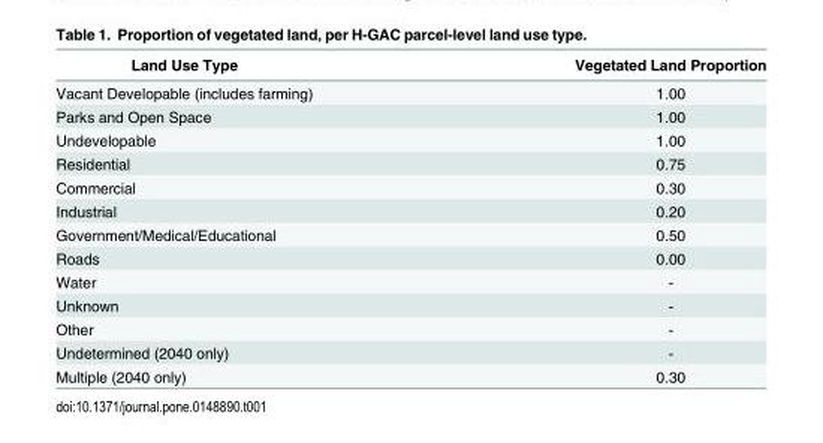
<table><thead><tr><td>Land Use Type</td><td>Vegetated Land Proportion</td></tr></thead><tbody><tr><td>Vacant Developable (includes farming)</td><td>1.00</td></tr><tr><td>Parks and Open Space</td><td>1.00</td></tr><tr><td>Undevelopable</td><td>1.00</td></tr><tr><td>Residential</td><td>0.75</td></tr><tr><td>Commercial</td><td>0.30</td></tr><tr><td>Industrial</td><td>0.20</td></tr><tr><td>Government/Medical/Educational</td><td>0.50</td></tr><tr><td>Roads</td><td>0.00</td></tr><tr><td>Water</td><td>-</td></tr><tr><td>Unknown</td><td>-</td></tr><tr><td>Other</td><td>-</td></tr><tr><td>Undetermined (2040 only)</td><td>-</td></tr><tr><td>Multiple (2040 only)</td><td>0.30</td></tr></tbody></table>